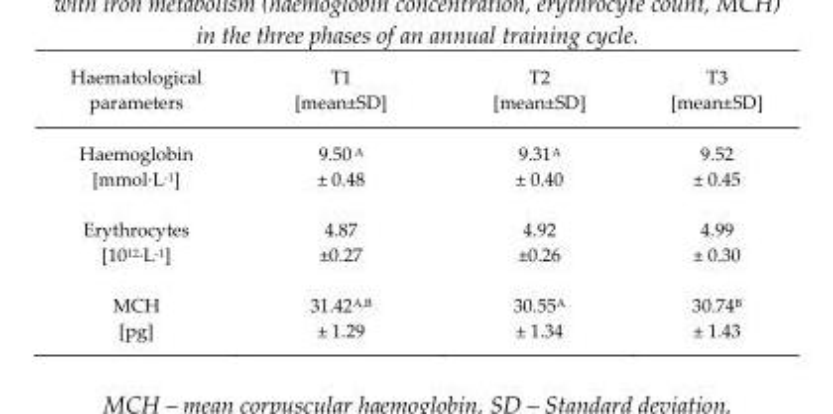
<table><thead><tr><td>Haematological parameters</td><td>T1 [mean±SD]</td><td>T2 [mean±SD]</td><td>T3 [mean±SD]</td></tr></thead><tbody><tr><td>Haemoglobin [mmol·L<sup>-1</sup>]</td><td>9.50 A ± 0.48</td><td>9.31<sup>A</sup> ± 0.40</td><td>9.52 ± 0.45</td></tr><tr><td>Erythrocytes [10<sup>12</sup>·L<sup>-1</sup>]</td><td>4.87 ±0.27</td><td>4.92 ±0.26</td><td>4.99 ± 0.30</td></tr><tr><td>MCH [pg]</td><td>31.42<sup>A</sup>,<sup>B</sup> ± 1.29</td><td>30.55<sup>A</sup> ± 1.34</td><td>30.74<sup>B</sup> ± 1.43</td></tr></tbody></table>